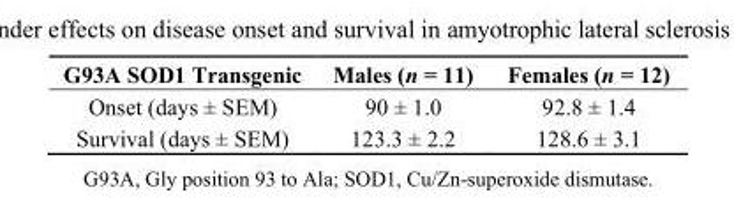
<table><thead><tr><td>G93A SOD1 Transgenic</td><td>Males (n = 11)</td><td>Females (n = 12)</td></tr></thead><tbody><tr><td>Onset (days ± SEM)</td><td>90 ± 1.0</td><td>92.8 ± 1.4</td></tr><tr><td>Survival (days ± SEM)</td><td>123.3 ± 2.2</td><td>128.6 ± 3.1</td></tr></tbody></table>